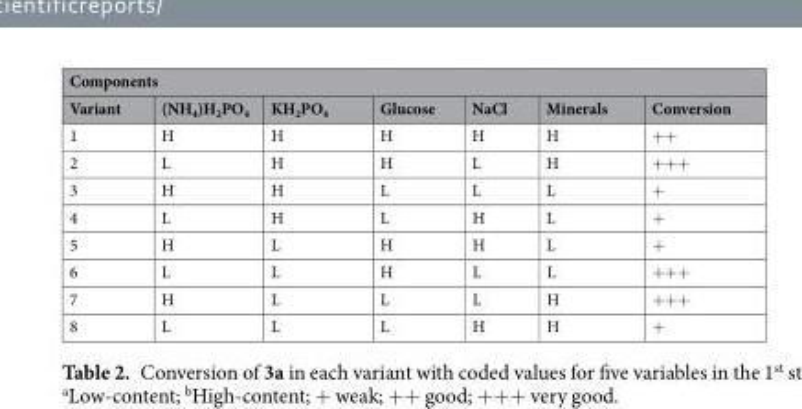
<table><thead><tr><td colspan="7">Components</td></tr><tr><td>Variant</td><td>(NH<sub>4</sub>)H<sub>2</sub>PO<sub>4</sub></td><td>KH<sub>2</sub>PO<sub>4</sub></td><td>Glucose</td><td>NaCl</td><td>Minerals</td><td>Conversion</td></tr></thead><tbody><tr><td>1</td><td>H</td><td>H</td><td>H</td><td>H</td><td>H</td><td>++</td></tr><tr><td>2</td><td>L</td><td>H</td><td>H</td><td>L</td><td>H</td><td>+++</td></tr><tr><td>3</td><td>H</td><td>H</td><td>L</td><td>L</td><td>L</td><td>+</td></tr><tr><td>4</td><td>L</td><td>H</td><td>L</td><td>H</td><td>L</td><td>+</td></tr><tr><td>5</td><td>H</td><td>L</td><td>H</td><td>H</td><td>L</td><td>+</td></tr><tr><td>6</td><td>L</td><td>L</td><td>H</td><td>L</td><td>L</td><td>+++</td></tr><tr><td>7</td><td>H</td><td>L</td><td>L</td><td>L</td><td>H</td><td>+++</td></tr><tr><td>8</td><td>L</td><td>L</td><td>L</td><td>H</td><td>H</td><td>+</td></tr></tbody></table>